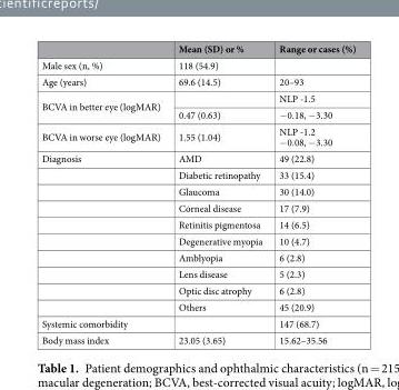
<table><thead><tr><td></td><td>Mean (SD) or %</td><td>Range or cases (%)</td></tr></thead><tbody><tr><td>Male sex (n, %)</td><td>118 (54.9)</td><td></td></tr><tr><td>Age (years)</td><td>69.6 (14.5)</td><td>20–93</td></tr><tr><td rowspan="2">BCVA in better eye (logMAR)</td><td></td><td>NLP -1.5</td></tr><tr><td>0.47 (0.63)</td><td>−0.18, −3.30</td></tr><tr><td>BCVA in worse eye (logMAR)</td><td>1.55 (1.04)</td><td>NLP -1.2 −0.08, −3.30</td></tr><tr><td rowspan="10">Diagnosis</td><td>AMD</td><td>49 (22.8)</td></tr><tr><td>Diabetic retinopathy</td><td>33 (15.4)</td></tr><tr><td>Glaucoma</td><td>30 (14.0)</td></tr><tr><td>Corneal disease</td><td>17 (7.9)</td></tr><tr><td>Retinitis pigmentosa</td><td>14 (6.5)</td></tr><tr><td>Degenerative myopia</td><td>10 (4.7)</td></tr><tr><td>Amblyopia</td><td>6 (2.8)</td></tr><tr><td>Lens disease</td><td>5 (2.3)</td></tr><tr><td>Optic disc atrophy</td><td>6 (2.8)</td></tr><tr><td>Others</td><td>45 (20.9)</td></tr><tr><td>Systemic comorbidity</td><td></td><td>147 (68.7)</td></tr><tr><td>Body mass index</td><td>23.05 (3.65)</td><td>15.62–35.56</td></tr></tbody></table>